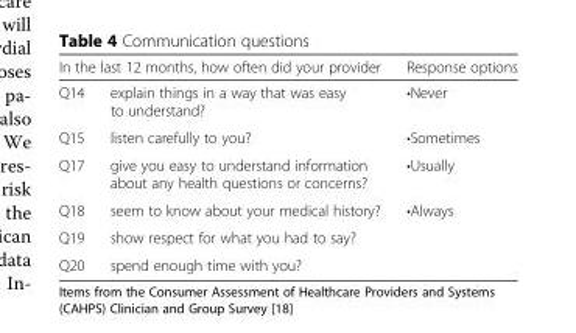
<table><thead><tr><td colspan="2">In the last 12 months, how often did your provider</td><td rowspan="2">Response options •Never</td></tr><tr><td>Q14</td><td>explain things in a way that was easy to understand?</td></tr></thead><tbody><tr><td>Q15</td><td>listen carefully to you?</td><td>•Sometimes</td></tr><tr><td>Q17</td><td>give you easy to understand information about any health questions or concerns?</td><td>•Usually</td></tr><tr><td>Q18</td><td>seem to know about your medical history?</td><td rowspan="3">•Always</td></tr><tr><td>Q19</td><td>show respect for what you had to say?</td></tr><tr><td>Q20</td><td>spend enough time with you?</td></tr></tbody></table>